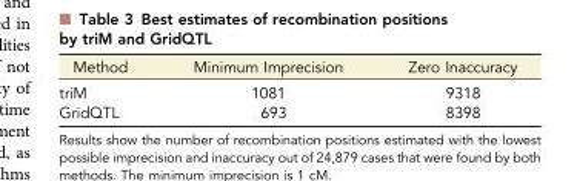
<table><thead><tr><td>Method</td><td>Minimum Imprecision</td><td>Zero Inaccuracy</td></tr></thead><tbody><tr><td>triM</td><td>1081</td><td>9318</td></tr><tr><td>GridQTL</td><td>693</td><td>8398</td></tr></tbody></table>